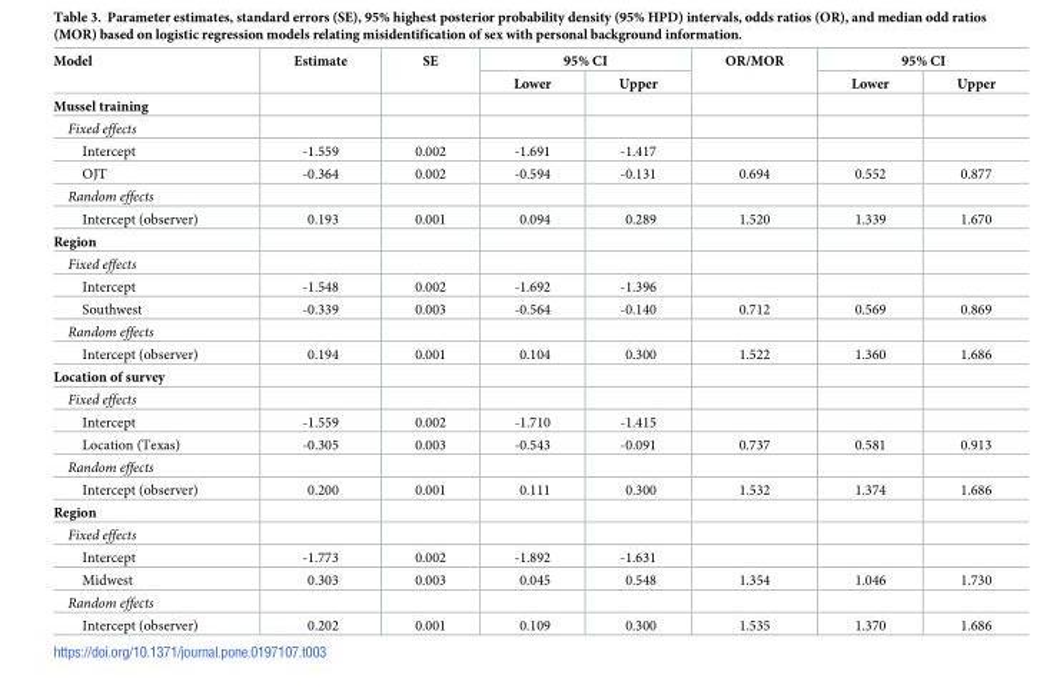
<table><thead><tr><td rowspan="2">Model</td><td rowspan="2">Estimate</td><td rowspan="2">SE</td><td colspan="2">95% CI</td><td rowspan="2">OR/MOR</td><td colspan="2">95% CI</td></tr><tr><td>Lower</td><td>Upper</td><td>Lower</td><td>Upper</td></tr></thead><tbody><tr><td colspan="8">Mussel training</td></tr><tr><td colspan="8">Fixed effects</td></tr><tr><td>Intercept</td><td>-1.559</td><td>0.002</td><td>-1.691</td><td>-1.417</td><td></td><td></td><td></td></tr><tr><td>OJT</td><td>-0.364</td><td>0.002</td><td>-0.594</td><td>-0.131</td><td>0.694</td><td>0.552</td><td>0.877</td></tr><tr><td colspan="8">Random effects</td></tr><tr><td>Intercept (observer)</td><td>0.193</td><td>0.001</td><td>0.094</td><td>0.289</td><td>1.520</td><td>1.339</td><td>1.670</td></tr><tr><td colspan="8">Region</td></tr><tr><td colspan="8">Fixed effects</td></tr><tr><td>Intercept</td><td>-1.548</td><td>0.002</td><td>-1.692</td><td>-1.396</td><td></td><td></td><td></td></tr><tr><td>Southwest</td><td>-0.339</td><td>0.003</td><td>-0.564</td><td>-0.140</td><td>0.712</td><td>0.569</td><td>0.869</td></tr><tr><td colspan="8">Random effects</td></tr><tr><td>Intercept (observer)</td><td>0.194</td><td>0.001</td><td>0.104</td><td>0.300</td><td>1.522</td><td>1.360</td><td>1.686</td></tr><tr><td colspan="8">Location of survey</td></tr><tr><td colspan="8">Fixed effects</td></tr><tr><td>Intercept</td><td>-1.559</td><td>0.002</td><td>-1.710</td><td>-1.415</td><td></td><td></td><td></td></tr><tr><td>Location (Texas)</td><td>-0.305</td><td>0.003</td><td>-0.543</td><td>-0.091</td><td>0.737</td><td>0.581</td><td>0.913</td></tr><tr><td colspan="8">Random effects</td></tr><tr><td>Intercept (observer)</td><td>0.200</td><td>0.001</td><td>0.111</td><td>0.300</td><td>1.532</td><td>1.374</td><td>1.686</td></tr><tr><td colspan="8">Region</td></tr><tr><td colspan="8">Fixed effects</td></tr><tr><td>Intercept</td><td>-1.773</td><td>0.002</td><td>-1.892</td><td>-1.631</td><td></td><td></td><td></td></tr><tr><td>Midwest</td><td>0.303</td><td>0.003</td><td>0.045</td><td>0.548</td><td>1.354</td><td>1.046</td><td>1.730</td></tr><tr><td colspan="8">Random effects</td></tr><tr><td>Intercept (observer)</td><td>0.202</td><td>0.001</td><td>0.109</td><td>0.300</td><td>1.535</td><td>1.370</td><td>1.686</td></tr></tbody></table>